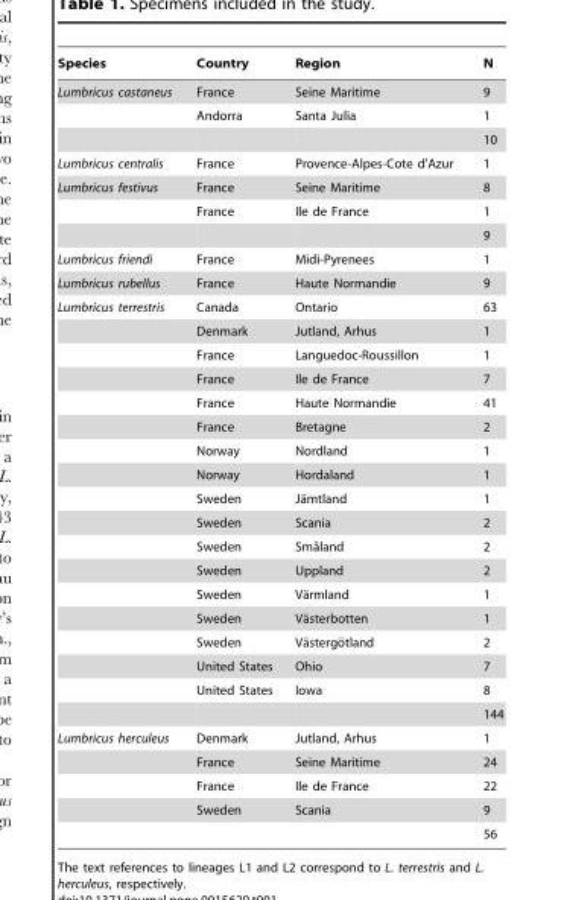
<table><thead><tr><td>Species</td><td>Country</td><td>Region</td><td>N</td></tr></thead><tbody><tr><td rowspan="3">Lumbricus castaneus</td><td>France</td><td>Seine Maritime</td><td>9</td></tr><tr><td>Andorra</td><td>Santa Julia</td><td>1</td></tr><tr><td></td><td></td><td>10</td></tr><tr><td>Lumbricus centralis</td><td>France</td><td>Provence-Alpes-Cote d’Azur</td><td>1</td></tr><tr><td rowspan="3">Lumbricus festivus</td><td>France</td><td>Seine Maritime</td><td>8</td></tr><tr><td>France</td><td>Ile de France</td><td>1</td></tr><tr><td></td><td></td><td>9</td></tr><tr><td>Lumbricus friendi</td><td>France</td><td>Midi-Pyrenees</td><td>1</td></tr><tr><td>Lumbricus rubellus</td><td>France</td><td>Haute Normandie</td><td>9</td></tr><tr><td rowspan="18">Lumbricus terrestris</td><td>Canada</td><td>Ontario</td><td>63</td></tr><tr><td>Denmark</td><td>Jutland, Arhus</td><td>1</td></tr><tr><td>France</td><td>Languedoc-Roussillon</td><td>1</td></tr><tr><td>France</td><td>Ile de France</td><td>7</td></tr><tr><td>France</td><td>Haute Normandie</td><td>41</td></tr><tr><td>France</td><td>Bretagne</td><td>2</td></tr><tr><td>Norway</td><td>Nordland</td><td>1</td></tr><tr><td>Norway</td><td>Hordaland</td><td>1</td></tr><tr><td>Sweden</td><td>Ja¨mtland</td><td>1</td></tr><tr><td>Sweden</td><td>Scania</td><td>2</td></tr><tr><td>Sweden</td><td>Sma˚land</td><td>2</td></tr><tr><td>Sweden</td><td>Uppland</td><td>2</td></tr><tr><td>Sweden</td><td>Va¨rmland</td><td>1</td></tr><tr><td>Sweden</td><td>Va¨sterbotten</td><td>1</td></tr><tr><td>Sweden</td><td>Va¨stergo¨tland</td><td>2</td></tr><tr><td>United States</td><td>Ohio</td><td>7</td></tr><tr><td>United States</td><td>Iowa</td><td>8</td></tr><tr><td></td><td></td><td>144</td></tr><tr><td rowspan="5">Lumbricus herculeus</td><td>Denmark</td><td>Jutland, Arhus</td><td>1</td></tr><tr><td>France</td><td>Seine Maritime</td><td>24</td></tr><tr><td>France</td><td>Ile de France</td><td>22</td></tr><tr><td>Sweden</td><td>Scania</td><td>9</td></tr><tr><td></td><td></td><td>56</td></tr></tbody></table>